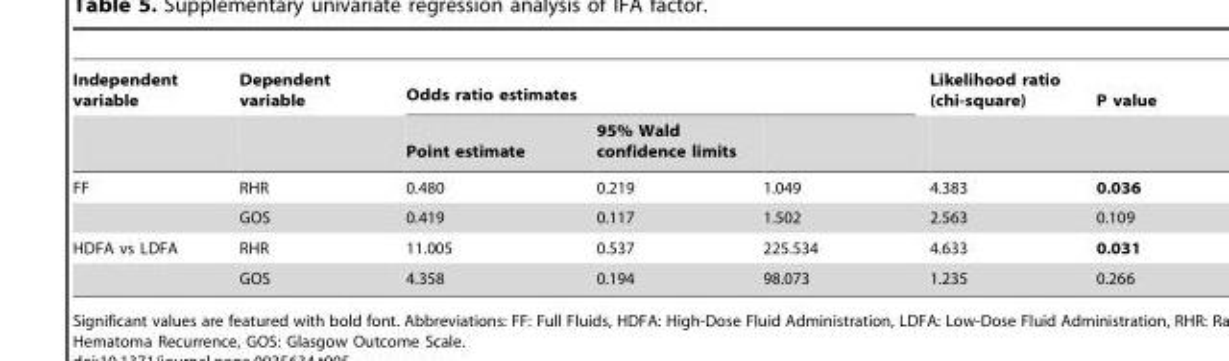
<table><thead><tr><td rowspan="2">Independent variable</td><td rowspan="2">Dependent variable</td><td colspan="3">Odds ratio estimates</td><td rowspan="2">Likelihood ratio (chi-square)</td><td rowspan="2">P value</td></tr><tr><td>Point estimate</td><td>95% Wald confidence limits</td><td></td></tr></thead><tbody><tr><td rowspan="2">FF</td><td>RHR</td><td>0.480</td><td>0.219</td><td>1.049</td><td>4.383</td><td>0.036</td></tr><tr><td>GOS</td><td>0.419</td><td>0.117</td><td>1.502</td><td>2.563</td><td>0.109</td></tr><tr><td rowspan="2">HDFA vs LDFA</td><td>RHR</td><td>11.005</td><td>0.537</td><td>225.534</td><td>4.633</td><td>0.031</td></tr><tr><td>GOS</td><td>4.358</td><td>0.194</td><td>98.073</td><td>1.235</td><td>0.266</td></tr></tbody></table>